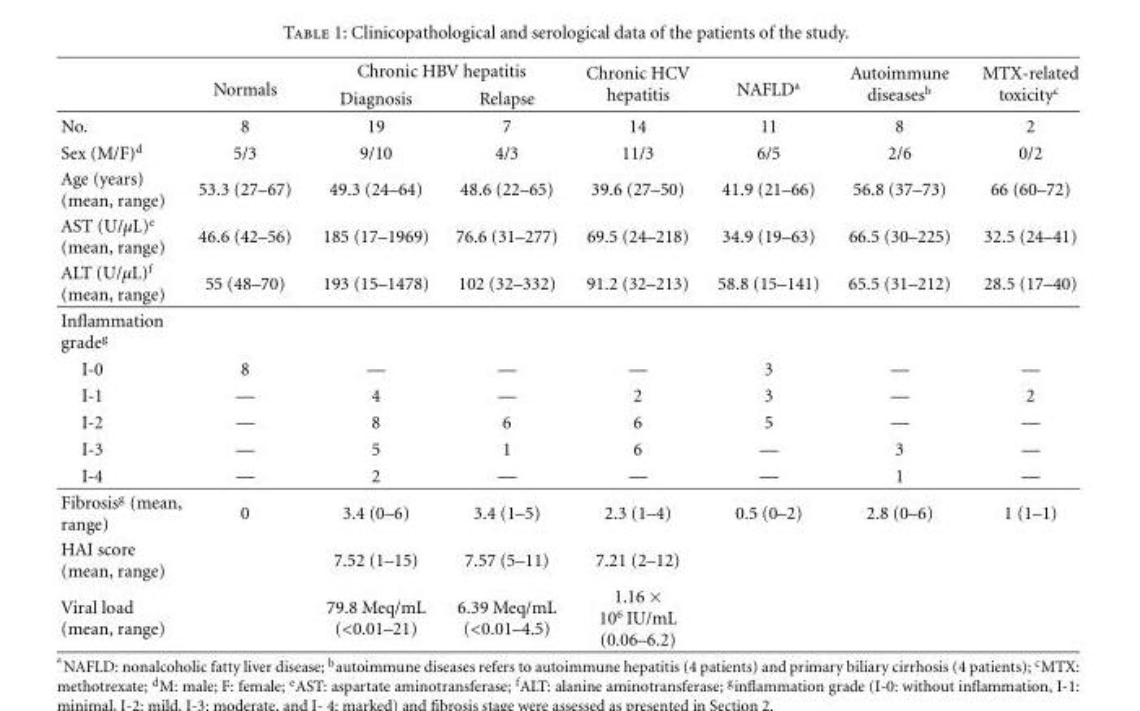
<table><thead><tr><td rowspan="2"></td><td rowspan="2">Normals</td><td colspan="2">Chronic HBV hepatitis</td><td rowspan="2">Chronic HCV hepatitis</td><td rowspan="2">NAFLD<sup>a</sup></td><td rowspan="2">Autoimmune diseases<sup>b</sup></td><td rowspan="2">MTX-related toxicity<sup>c</sup></td></tr><tr><td>Diagnosis</td><td>Relapse</td></tr></thead><tbody><tr><td>No.</td><td>8</td><td>19</td><td>7</td><td>14</td><td>11</td><td>8</td><td>2</td></tr><tr><td>Sex (M/F)<sup>d</sup></td><td>5/3</td><td>9/10</td><td>4/3</td><td>11/3</td><td>6/5</td><td>2/6</td><td>0/2</td></tr><tr><td>Age (years) (mean, range)</td><td>53.3 (27–67)</td><td>49.3 (24–64)</td><td>48.6 (22–65)</td><td>39.6 (27–50)</td><td>41.9 (21–66)</td><td>56.8 (37–73)</td><td>66 (60–72)</td></tr><tr><td>AST (U/μL)<sup>e</sup> (mean, range)</td><td>46.6 (42–56)</td><td>185 (17–1969)</td><td>76.6 (31–277)</td><td>69.5 (24–218)</td><td>34.9 (19–63)</td><td>66.5 (30–225)</td><td>32.5 (24–41)</td></tr><tr><td>ALT (U/μL)<sup>f</sup> (mean, range)</td><td>55 (48–70)</td><td>193 (15–1478)</td><td>102 (32–332)</td><td>91.2 (32–213)</td><td>58.8 (15–141)</td><td>65.5 (31–212)</td><td>28.5 (17–40)</td></tr><tr><td colspan="8">Inflammation grade<sup>g</sup></td></tr><tr><td>I-0</td><td>8</td><td>—</td><td>—</td><td>—</td><td>3</td><td>—</td><td>—</td></tr><tr><td>I-1</td><td>—</td><td>4</td><td>—</td><td>2</td><td>3</td><td>—</td><td>2</td></tr><tr><td>I-2</td><td>—</td><td>8</td><td>6</td><td>6</td><td>5</td><td>—</td><td>—</td></tr><tr><td>I-3</td><td>—</td><td>5</td><td>1</td><td>6</td><td>—</td><td>3</td><td>—</td></tr><tr><td>I-4</td><td>—</td><td>2</td><td>—</td><td>—</td><td>—</td><td>1</td><td>—</td></tr><tr><td>Fibrosis<sup>g</sup> (mean, range)</td><td>0</td><td>3.4 (0–6)</td><td>3.4 (1–5)</td><td>2.3 (1–4)</td><td>0.5 (0–2)</td><td>2.8 (0–6)</td><td>1 (1–1)</td></tr><tr><td>HAI score (mean, range)</td><td></td><td>7.52 (1–15)</td><td>7.57 (5–11)</td><td>7.21 (2–12)</td><td></td><td></td><td></td></tr><tr><td>Viral load (mean, range)</td><td></td><td>79.8 Meq/mL (&lt;0.01–21)</td><td>6.39 Meq/mL (&lt;0.01–4.5)</td><td>1.16 × 10<sup>6</sup> IU/mL (0.06–6.2)</td><td></td><td></td><td></td></tr></tbody></table>